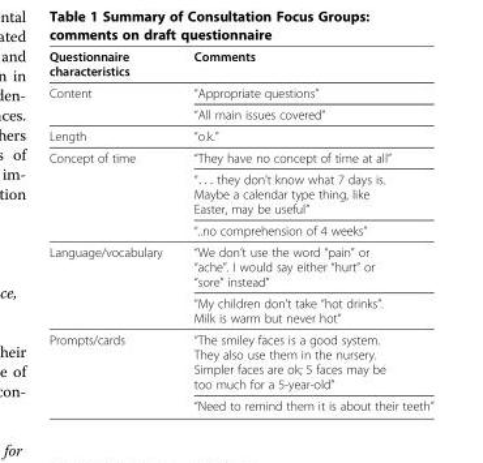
<table><thead><tr><td>Questionnaire characteristics</td><td>Comments</td></tr></thead><tbody><tr><td rowspan="2">Content</td><td>“Appropriate questions”</td></tr><tr><td>“All main issues covered”</td></tr><tr><td>Length</td><td>“o.k.”</td></tr><tr><td rowspan="3">Concept of time</td><td>“They have no concept of time at all”</td></tr><tr><td>“. . . they don’t know what 7 days is. Maybe a calendar type thing, like Easter, may be useful”</td></tr><tr><td>“..no comprehension of 4 weeks”</td></tr><tr><td rowspan="2">Language/vocabulary</td><td>“We don’t use the word “pain” or “ache”. I would say either “hurt” or “sore” instead”</td></tr><tr><td>“My children don’t take “hot drinks”. Milk is warm but never hot”</td></tr><tr><td rowspan="2">Prompts/cards</td><td>“The smiley faces is a good system. They also use them in the nursery. Simpler faces are ok; 5 faces may be too much for a 5-year-old”</td></tr><tr><td>“Need to remind them it is about their teeth”</td></tr></tbody></table>